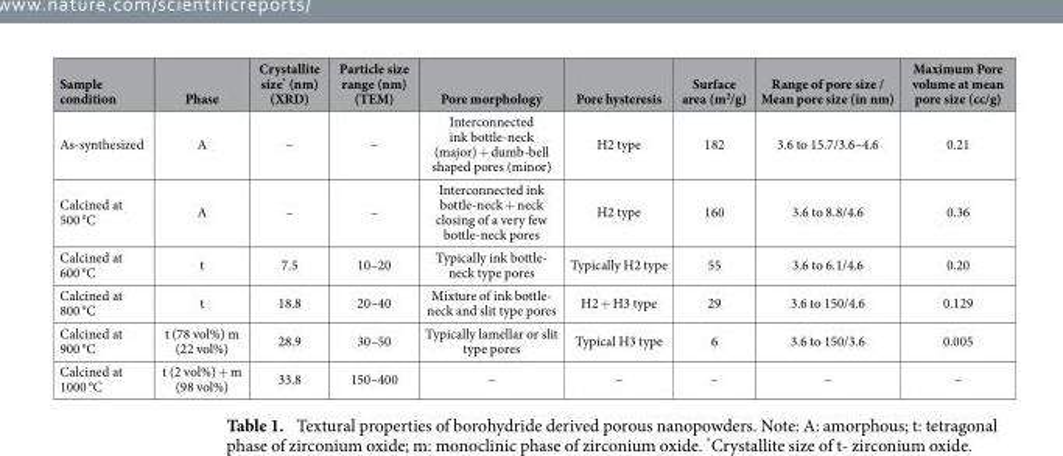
<table><thead><tr><td>Sample condition</td><td>Phase</td><td>Crystallite size* (nm) (XRD)</td><td>Particle size range (nm) (TEM)</td><td>Pore morphology</td><td>Pore hysteresis</td><td>Surface area (m<sup>2</sup>/g)</td><td>Range of pore size / Mean pore size (in nm)</td><td>Maximum Pore volume at mean pore size (cc/g)</td></tr></thead><tbody><tr><td>As-synthesized</td><td>A</td><td>–</td><td>–</td><td>Interconnected ink bottle-neck (major) + dumb-bell shaped pores (minor)</td><td>H2 type</td><td>182</td><td>3.6 to 15.7/3.6–4.6</td><td>0.21</td></tr><tr><td>Calcined at 500 °C</td><td>A</td><td>–</td><td>–</td><td>Interconnected ink bottle-neck + neck closing of a very few bottle-neck pores</td><td>H2 type</td><td>160</td><td>3.6 to 8.8/4.6</td><td>0.36</td></tr><tr><td>Calcined at 600 °C</td><td>t</td><td>7.5</td><td>10–20</td><td>Typically ink bottle- neck type pores</td><td>Typically H2 type</td><td>55</td><td>3.6 to 6.1/4.6</td><td>0.20</td></tr><tr><td>Calcined at 800 °C</td><td>t</td><td>18.8</td><td>20–40</td><td>Mixture of ink bottle- neck and slit type pores</td><td>H2 + H3 type</td><td>29</td><td>3.6 to 150/4.6</td><td>0.129</td></tr><tr><td>Calcined at 900 °C</td><td>t (78 vol%) m (22 vol%)</td><td>28.9</td><td>30–50</td><td>Typically lamellar or slit type pores</td><td>Typical H3 type</td><td>6</td><td>3.6 to 150/3.6</td><td>0.005</td></tr><tr><td>Calcined at 1000 °C</td><td>t (2 vol%) + m (98 vol%)</td><td>33.8</td><td>150–400</td><td>–</td><td>–</td><td>–</td><td>–</td><td>–</td></tr></tbody></table>